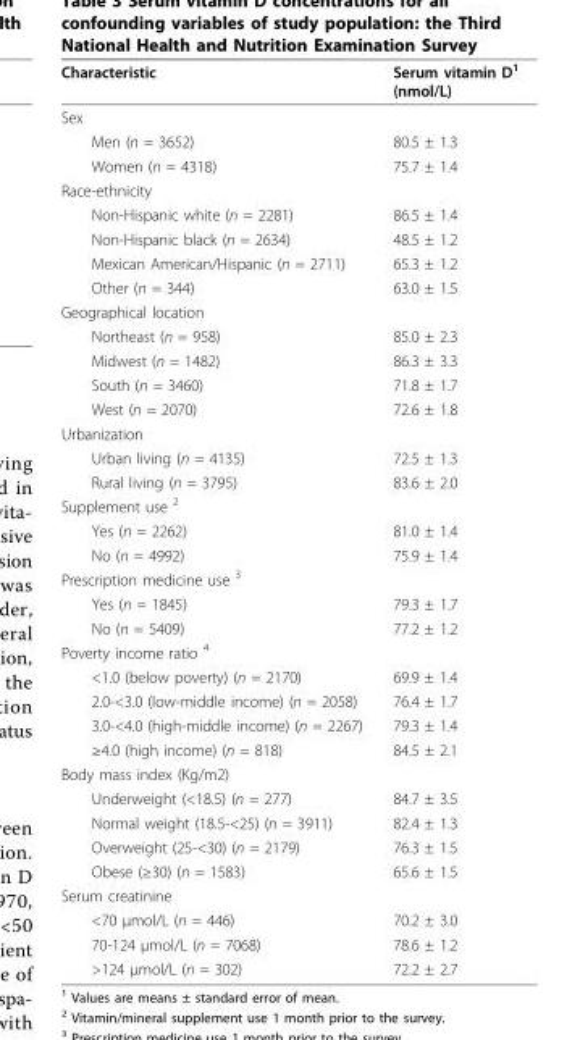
<table><thead><tr><td>Characteristic</td><td>Serum vitamin D<sup>1</sup> (nmol/L)</td></tr></thead><tbody><tr><td colspan="2">Sex</td></tr><tr><td>Men (n = 3652)</td><td>80.5 ± 1.3</td></tr><tr><td>Women (n = 4318)</td><td>75.7 ± 1.4</td></tr><tr><td colspan="2">Race-ethnicity</td></tr><tr><td>Non-Hispanic white (n = 2281)</td><td>86.5 ± 1.4</td></tr><tr><td>Non-Hispanic black (n = 2634)</td><td>48.5 ± 1.2</td></tr><tr><td>Mexican American/Hispanic (n = 2711)</td><td>65.3 ± 1.2</td></tr><tr><td>Other (n = 344)</td><td>63.0 ± 1.5</td></tr><tr><td colspan="2">Geographical location</td></tr><tr><td>Northeast (n = 958)</td><td>85.0 ± 2.3</td></tr><tr><td>Midwest (n = 1482)</td><td>86.3 ± 3.3</td></tr><tr><td>South (n = 3460)</td><td>71.8 ± 1.7</td></tr><tr><td>West (n = 2070)</td><td>72.6 ± 1.8</td></tr><tr><td colspan="2">Urbanization</td></tr><tr><td>Urban living (n = 4135)</td><td>72.5 ± 1.3</td></tr><tr><td>Rural living (n = 3795)</td><td>83.6 ± 2.0</td></tr><tr><td colspan="2">Supplement use <sup>2</sup></td></tr><tr><td>Yes (n = 2262)</td><td>81.0 ± 1.4</td></tr><tr><td>No (n = 4992)</td><td>75.9 ± 1.4</td></tr><tr><td colspan="2">Prescription medicine use <sup>3</sup></td></tr><tr><td>Yes (n = 1845)</td><td>79.3 ± 1.7</td></tr><tr><td>No (n = 5409)</td><td>77.2 ± 1.2</td></tr><tr><td colspan="2">Poverty income ratio <sup>4</sup></td></tr><tr><td>&lt;1.0 (below poverty) (n = 2170)</td><td>69.9 ± 1.4</td></tr><tr><td>2.0-&lt;3.0 (low-middle income) (n = 2058)</td><td>76.4 ± 1.7</td></tr><tr><td>3.0-&lt;4.0 (high-middle income) (n = 2267)</td><td>79.3 ± 1.4</td></tr><tr><td>≥4.0 (high income) (n = 818)</td><td>84.5 ± 2.1</td></tr><tr><td colspan="2">Body mass index (Kg/m2)</td></tr><tr><td>Underweight (&lt;18.5) (n = 277)</td><td>84.7 ± 3.5</td></tr><tr><td>Normal weight (18.5-&lt;25) (n = 3911)</td><td>82.4 ± 1.3</td></tr><tr><td>Overweight (25-&lt;30) (n = 2179)</td><td>76.3 ± 1.5</td></tr><tr><td>Obese (≥30) (n = 1583)</td><td>65.6 ± 1.5</td></tr><tr><td colspan="2">Serum creatinine</td></tr><tr><td>&lt;70 μmol/L (n = 446)</td><td>70.2 ± 3.0</td></tr><tr><td>70-124 μmol/L (n = 7068)</td><td>78.6 ± 1.2</td></tr><tr><td>&gt;124 μmol/L (n = 302)</td><td>72.2 ± 2.7</td></tr></tbody></table>